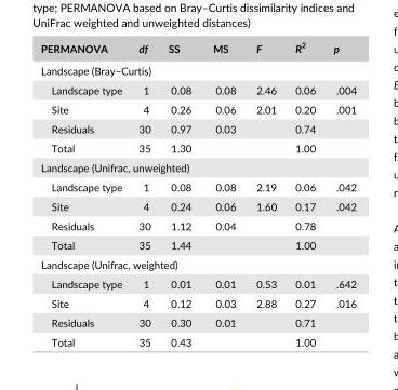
<table><thead><tr><td>PERMANOVA</td><td>df</td><td>SS</td><td>MS</td><td>F</td><td>R<sup>2</sup></td><td>p</td></tr></thead><tbody><tr><td colspan="7">Landscape (Bray–Curtis)</td></tr><tr><td>Landscape type</td><td>1</td><td>0.08</td><td>0.08</td><td>2.46</td><td>0.06</td><td>.004</td></tr><tr><td>Site</td><td>4</td><td>0.26</td><td>0.06</td><td>2.01</td><td>0.20</td><td>.001</td></tr><tr><td>Residuals</td><td>30</td><td>0.97</td><td>0.03</td><td></td><td>0.74</td><td></td></tr><tr><td>Total</td><td>35</td><td>1.30</td><td></td><td></td><td>1.00</td><td></td></tr><tr><td colspan="7">Landscape (Unifrac, unweighted)</td></tr><tr><td>Landscape type</td><td>1</td><td>0.08</td><td>0.08</td><td>2.19</td><td>0.06</td><td>.042</td></tr><tr><td>Site</td><td>4</td><td>0.24</td><td>0.06</td><td>1.60</td><td>0.17</td><td>.042</td></tr><tr><td>Residuals</td><td>30</td><td>1.12</td><td>0.04</td><td></td><td>0.78</td><td></td></tr><tr><td>Total</td><td>35</td><td>1.44</td><td></td><td></td><td>1.00</td><td></td></tr><tr><td colspan="7">Landscape (Unifrac, weighted)</td></tr><tr><td>Landscape type</td><td>1</td><td>0.01</td><td>0.01</td><td>0.53</td><td>0.01</td><td>.642</td></tr><tr><td>Site</td><td>4</td><td>0.12</td><td>0.03</td><td>2.88</td><td>0.27</td><td>.016</td></tr><tr><td>Residuals</td><td>30</td><td>0.30</td><td>0.01</td><td></td><td>0.71</td><td></td></tr><tr><td>Total</td><td>35</td><td>0.43</td><td></td><td></td><td>1.00</td><td></td></tr></tbody></table>